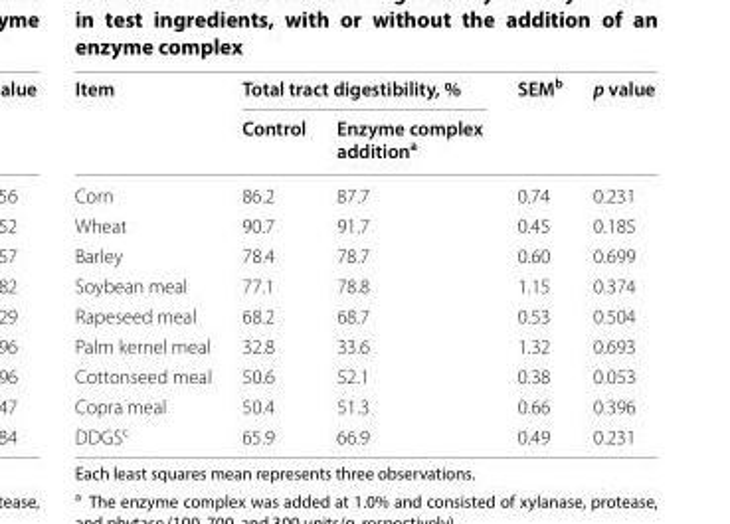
<table><thead><tr><td rowspan="2">Item</td><td colspan="2">Total tract digestibility, %</td><td rowspan="2">SEM<sup>b</sup></td><td rowspan="2">p value</td></tr><tr><td>Control</td><td>Enzyme complex addition<sup>a</sup></td></tr></thead><tbody><tr><td>Corn</td><td>86.2</td><td>87.7</td><td>0.74</td><td>0.231</td></tr><tr><td>Wheat</td><td>90.7</td><td>91.7</td><td>0.45</td><td>0.185</td></tr><tr><td>Barley</td><td>78.4</td><td>78.7</td><td>0.60</td><td>0.699</td></tr><tr><td>Soybean meal</td><td>77.1</td><td>78.8</td><td>1.15</td><td>0.374</td></tr><tr><td>Rapeseed meal</td><td>68.2</td><td>68.7</td><td>0.53</td><td>0.504</td></tr><tr><td>Palm kernel meal</td><td>32.8</td><td>33.6</td><td>1.32</td><td>0.693</td></tr><tr><td>Cottonseed meal</td><td>50.6</td><td>52.1</td><td>0.38</td><td>0.053</td></tr><tr><td>Copra meal</td><td>50.4</td><td>51.3</td><td>0.66</td><td>0.396</td></tr><tr><td>DDGS<sup>c</sup></td><td>65.9</td><td>66.9</td><td>0.49</td><td>0.231</td></tr></tbody></table>